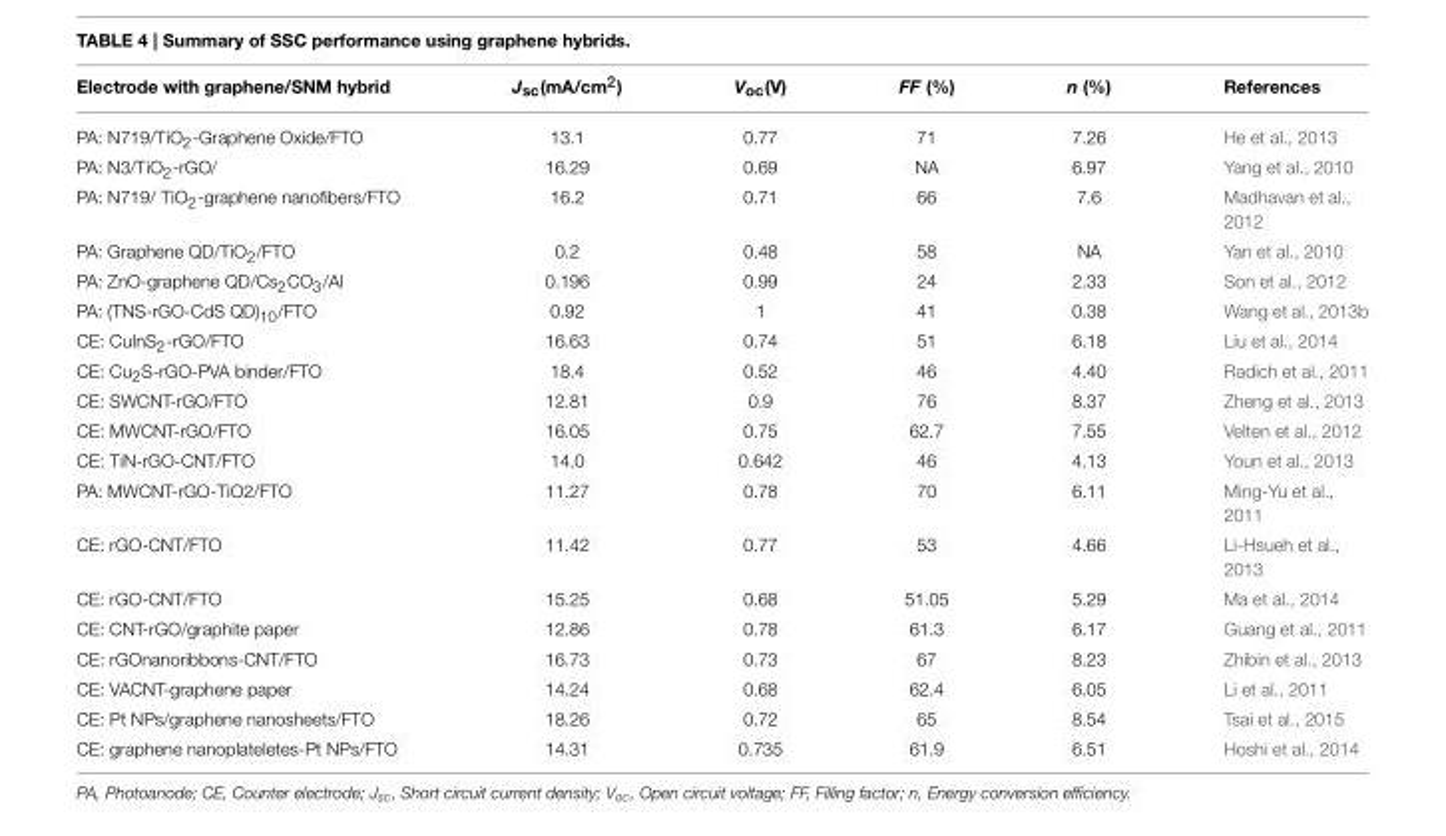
<table><thead><tr><td>Electrode with graphene/SNM hybrid</td><td>J<sub>sc</sub>(mA/cm<sup>2</sup>)</td><td>V<sub>oc</sub>(V)</td><td>FF (%)</td><td>n (%)</td><td>References</td></tr></thead><tbody><tr><td>PA: N719/TiO<sub>2</sub>-Graphene Oxide/FTO</td><td>13.1</td><td>0.77</td><td>71</td><td>7.26</td><td>He et al., 2013</td></tr><tr><td>PA: N3/TiO<sub>2</sub>-rGO/</td><td>16.29</td><td>0.69</td><td>NA</td><td>6.97</td><td>Yang et al., 2010</td></tr><tr><td>PA: N719/ TiO<sub>2</sub>-graphene nanofibers/FTO</td><td>16.2</td><td>0.71</td><td>66</td><td>7.6</td><td>Madhavan et al., 2012</td></tr><tr><td>PA: Graphene QD/TiO<sub>2</sub>/FTO</td><td>0.2</td><td>0.48</td><td>58</td><td>NA</td><td>Yan et al., 2010</td></tr><tr><td>PA: ZnO-graphene QD/Cs<sub>2</sub>CO<sub>3</sub>/Al</td><td>0.196</td><td>0.99</td><td>24</td><td>2.33</td><td>Son et al., 2012</td></tr><tr><td>PA: (TNS-rGO-CdS QD)<sub>10</sub>/FTO</td><td>0.92</td><td>1</td><td>41</td><td>0.38</td><td>Wang et al., 2013b</td></tr><tr><td>CE: CuInS<sub>2</sub>-rGO/FTO</td><td>16.63</td><td>0.74</td><td>51</td><td>6.18</td><td>Liu et al., 2014</td></tr><tr><td>CE: Cu<sub>2</sub>S-rGO-PVA binder/FTO</td><td>18.4</td><td>0.52</td><td>46</td><td>4.40</td><td>Radich et al., 2011</td></tr><tr><td>CE: SWCNT-rGO/FTO</td><td>12.81</td><td>0.9</td><td>76</td><td>8.37</td><td>Zheng et al., 2013</td></tr><tr><td>CE: MWCNT-rGO/FTO</td><td>16.05</td><td>0.75</td><td>62.7</td><td>7.55</td><td>Velten et al., 2012</td></tr><tr><td>CE: TiN-rGO-CNT/FTO</td><td>14.0</td><td>0.642</td><td>46</td><td>4.13</td><td>Youn et al., 2013</td></tr><tr><td>PA: MWCNT-rGO-TiO2/FTO</td><td>11.27</td><td>0.78</td><td>70</td><td>6.11</td><td>Ming-Yu et al., 2011</td></tr><tr><td>CE: rGO-CNT/FTO</td><td>11.42</td><td>0.77</td><td>53</td><td>4.66</td><td>Li-Hsueh et al., 2013</td></tr><tr><td>CE: rGO-CNT/FTO</td><td>15.25</td><td>0.68</td><td>51.05</td><td>5.29</td><td>Ma et al., 2014</td></tr><tr><td>CE: CNT-rGO/graphite paper</td><td>12.86</td><td>0.78</td><td>61.3</td><td>6.17</td><td>Guang et al., 2011</td></tr><tr><td>CE: rGOnanoribbons-CNT/FTO</td><td>16.73</td><td>0.73</td><td>67</td><td>8.23</td><td>Zhibin et al., 2013</td></tr><tr><td>CE: VACNT-graphene paper</td><td>14.24</td><td>0.68</td><td>62.4</td><td>6.05</td><td>Li et al., 2011</td></tr><tr><td>CE: Pt NPs/graphene nanosheets/FTO</td><td>18.26</td><td>0.72</td><td>65</td><td>8.54</td><td>Tsai et al., 2015</td></tr><tr><td>CE: graphene nanoplateletes-Pt NPs/FTO</td><td>14.31</td><td>0.735</td><td>61.9</td><td>6.51</td><td>Hoshi et al., 2014</td></tr></tbody></table>